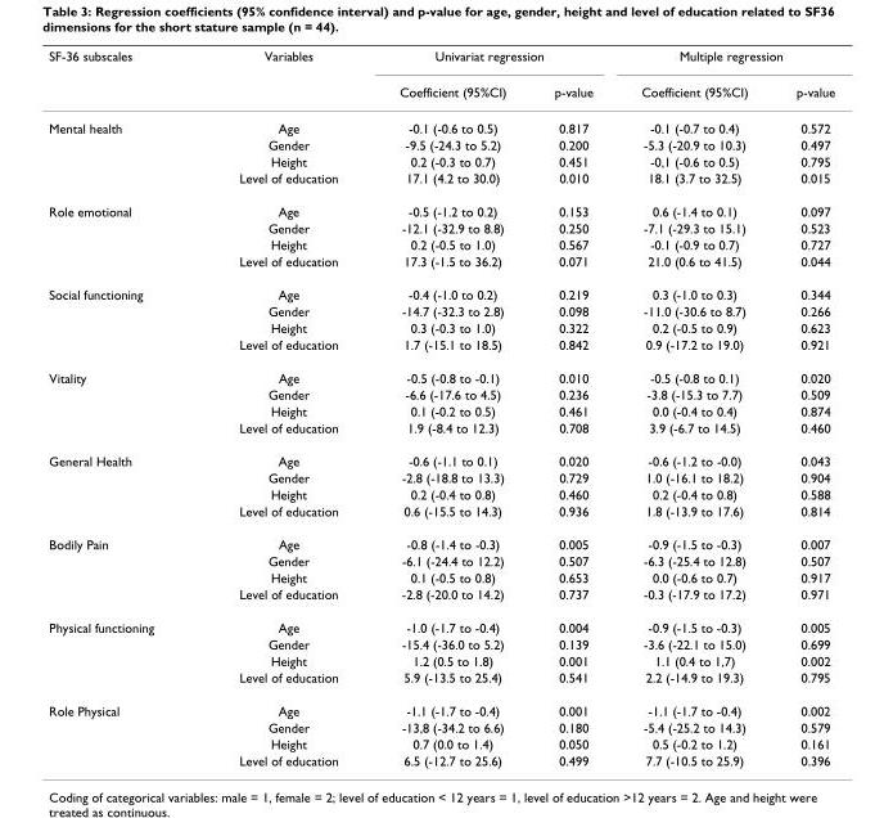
<table><thead><tr><td rowspan="2">SF-36 subscales</td><td rowspan="2">Variables</td><td colspan="2">Univariat regression</td><td colspan="2">Multiple regression</td></tr><tr><td>Coefficient (95%CI)</td><td>p-value</td><td>Coefficient (95%CI)</td><td>p-value</td></tr></thead><tbody><tr><td rowspan="4">Mental health</td><td>Age</td><td>-0.1 (-0.6 to 0.5)</td><td>0.817</td><td>-0.1 (-0.7 to 0.4)</td><td>0.572</td></tr><tr><td>Gender</td><td>-9.5 (-24.3 to 5.2)</td><td>0.200</td><td>-5.3 (-20.9 to 10.3)</td><td>0.497</td></tr><tr><td>Height</td><td>0.2 (-0.3 to 0.7)</td><td>0.451</td><td>-0,1 (-0.6 to 0.5)</td><td>0.795</td></tr><tr><td>Level of education</td><td>17.1 (4.2 to 30.0)</td><td>0.010</td><td>18.1 (3.7 to 32.5)</td><td>0.015</td></tr><tr><td rowspan="4">Role emotional</td><td>Age</td><td>-0.5 (-1.2 to 0.2)</td><td>0.153</td><td>0.6 (-1.4 to 0.1)</td><td>0.097</td></tr><tr><td>Gender</td><td>-12.1 (-32.9 to 8.8)</td><td>0.250</td><td>-7.1 (-29.3 to 15.1)</td><td>0.523</td></tr><tr><td>Height</td><td>0.2 (-0.5 to 1.0)</td><td>0.567</td><td>-0.1 (-0.9 to 0.7)</td><td>0.727</td></tr><tr><td>Level of education</td><td>17.3 (-1.5 to 36.2)</td><td>0.071</td><td>21.0 (0.6 to 41.5)</td><td>0.044</td></tr><tr><td rowspan="4">Social functioning</td><td>Age</td><td>-0.4 (-1.0 to 0.2)</td><td>0.219</td><td>0.3 (-1.0 to 0.3)</td><td>0.344</td></tr><tr><td>Gender</td><td>-14.7 (-32.3 to 2.8)</td><td>0.098</td><td>-11.0 (-30.6 to 8.7)</td><td>0.266</td></tr><tr><td>Height</td><td>0.3 (-0.3 to 1.0)</td><td>0.322</td><td>0.2 (-0.5 to 0.9)</td><td>0.623</td></tr><tr><td>Level of education</td><td>1.7 (-15.1 to 18.5)</td><td>0.842</td><td>0.9 (-17.2 to 19.0)</td><td>0.921</td></tr><tr><td rowspan="4">Vitality</td><td>Age</td><td>-0.5 (-0.8 to -0.1)</td><td>0.010</td><td>-0.5 (-0.8 to 0.1)</td><td>0.020</td></tr><tr><td>Gender</td><td>-6.6 (-17.6 to 4.5)</td><td>0.236</td><td>-3.8 (-15.3 to 7.7)</td><td>0.509</td></tr><tr><td>Height</td><td>0.1 (-0.2 to 0.5)</td><td>0.461</td><td>0.0 (-0.4 to 0.4)</td><td>0.874</td></tr><tr><td>Level of education</td><td>1.9 (-8.4 to 12.3)</td><td>0.708</td><td>3.9 (-6.7 to 14.5)</td><td>0.460</td></tr><tr><td rowspan="4">General Health</td><td>Age</td><td>-0.6 (-1.1 to 0.1)</td><td>0.020</td><td>-0.6 (-1.2 to -0.0)</td><td>0.043</td></tr><tr><td>Gender</td><td>-2.8 (-18.8 to 13.3)</td><td>0.729</td><td>1.0 (-16.1 to 18.2)</td><td>0.904</td></tr><tr><td>Height</td><td>0.2 (-0.4 to 0.8)</td><td>0.460</td><td>0.2 (-0.4 to 0.8)</td><td>0.588</td></tr><tr><td>Level of education</td><td>0.6 (-15.5 to 14.3)</td><td>0.936</td><td>1.8 (-13.9 to 17.6)</td><td>0.814</td></tr><tr><td rowspan="4">Bodily Pain</td><td>Age</td><td>-0.8 (-1.4 to -0.3)</td><td>0.005</td><td>-0.9 (-1.5 to -0.3)</td><td>0.007</td></tr><tr><td>Gender</td><td>-6.1 (-24.4 to 12.2)</td><td>0.507</td><td>-6.3 (-25.4 to 12.8)</td><td>0.507</td></tr><tr><td>Height</td><td>0.1 (-0.5 to 0.8)</td><td>0.653</td><td>0.0 (-0.6 to 0.7)</td><td>0.917</td></tr><tr><td>Level of education</td><td>-2.8 (-20.0 to 14.2)</td><td>0.737</td><td>-0.3 (-17.9 to 17.2)</td><td>0.971</td></tr><tr><td rowspan="4">Physical functioning</td><td>Age</td><td>-1.0 (-1.7 to -0.4)</td><td>0.004</td><td>-0.9 (-1.5 to -0.3)</td><td>0.005</td></tr><tr><td>Gender</td><td>-15.4 (-36.0 to 5.2)</td><td>0.139</td><td>-3.6 (-22.1 to 15.0)</td><td>0.699</td></tr><tr><td>Height</td><td>1.2 (0.5 to 1.8)</td><td>0.001</td><td>1.1 (0.4 to 1,7)</td><td>0.002</td></tr><tr><td>Level of education</td><td>5.9 (-13.5 to 25.4)</td><td>0.541</td><td>2.2 (-14.9 to 19.3)</td><td>0.795</td></tr><tr><td rowspan="4">Role Physical</td><td>Age</td><td>-1.1 (-1.7 to -0.4)</td><td>0.001</td><td>-1.1 (-1.7 to -0.4)</td><td>0.002</td></tr><tr><td>Gender</td><td>-13,8 (-34.2 to 6.6)</td><td>0.180</td><td>-5.4 (-25.2 to 14.3)</td><td>0.579</td></tr><tr><td>Height</td><td>0.7 (0.0 to 1.4)</td><td>0.050</td><td>0.5 (-0.2 to 1.2)</td><td>0.161</td></tr><tr><td>Level of education</td><td>6.5 (-12.7 to 25.6)</td><td>0.499</td><td>7.7 (-10.5 to 25.9)</td><td>0.396</td></tr></tbody></table>